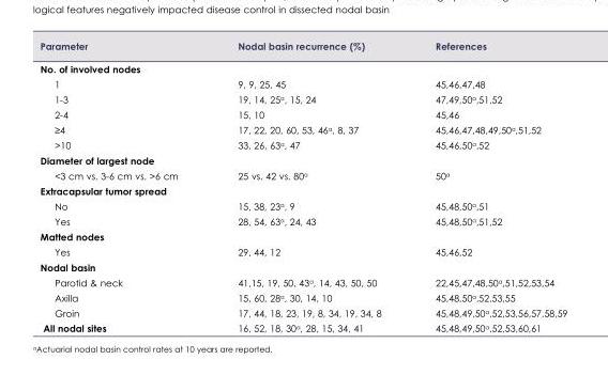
<table><thead><tr><td>Parameter</td><td>Nodal basin recurrence (%)</td><td>References</td></tr></thead><tbody><tr><td colspan="3">No. of involved nodes</td></tr><tr><td>1</td><td>9, 9, 25, 45</td><td>45,46,47,48</td></tr><tr><td>1-3</td><td>19, 14, 25<sup>a</sup>, 15, 24</td><td>47,49,50<sup>a</sup>,<sup>51</sup>,<sup>52</sup></td></tr><tr><td>2-4</td><td>15, 10</td><td>45,46</td></tr><tr><td>≥4</td><td>17, 22, 20, 60, 53, 46<sup>a</sup>, 8, 37</td><td>45,46,47,48,49,50<sup>a</sup>,<sup>51</sup>,<sup>52</sup></td></tr><tr><td>&gt;10</td><td>33, 26, 63<sup>a</sup>, 47</td><td>45,46,50<sup>a</sup>,<sup>52</sup></td></tr><tr><td colspan="3">Diameter of largest node</td></tr><tr><td>&lt;3 cm vs. 3-6 cm vs. &gt;6 cm</td><td>25 vs. 42 vs. 80<sup>a</sup></td><td>50<sup>a</sup></td></tr><tr><td colspan="3">Extracapsular tumor spread</td></tr><tr><td>No</td><td>15, 38, 23<sup>a</sup>, 9</td><td>45,48,50<sup>a</sup>,<sup>51</sup></td></tr><tr><td>Yes</td><td>28, 54, 63<sup>a</sup>, 24, 43</td><td>45,48,50<sup>a</sup>,<sup>51</sup>,<sup>52</sup></td></tr><tr><td colspan="3">Matted nodes</td></tr><tr><td>Yes</td><td>29, 44, 12</td><td>45,46,52</td></tr><tr><td colspan="3">Nodal basin</td></tr><tr><td>Parotid &amp; neck</td><td>41,15, 19, 50, 43<sup>a</sup>, 14, 43, 50, 50</td><td>22,45,47,48,50<sup>a</sup>,<sup>51</sup>,<sup>52</sup>,<sup>53</sup>,<sup>54</sup></td></tr><tr><td>Axilla</td><td>15, 60, 28<sup>a</sup>, 30, 14, 10</td><td>45,48,50<sup>a</sup>,<sup>52</sup>,<sup>53</sup>,<sup>55</sup></td></tr><tr><td>Groin</td><td>17, 44, 18, 23, 19, 8, 34, 19, 34, 8</td><td>45,48,49,50<sup>a</sup>,<sup>52</sup>,<sup>53</sup>,<sup>56</sup>,<sup>57</sup>,<sup>58</sup>,<sup>59</sup></td></tr><tr><td>All nodal sites</td><td>16, 52, 18, 30<sup>a</sup>, 28, 15, 34, 41</td><td>45,48,49,50<sup>a</sup>,<sup>52</sup>,<sup>53</sup>,<sup>60</sup>,<sup>61</sup></td></tr></tbody></table>